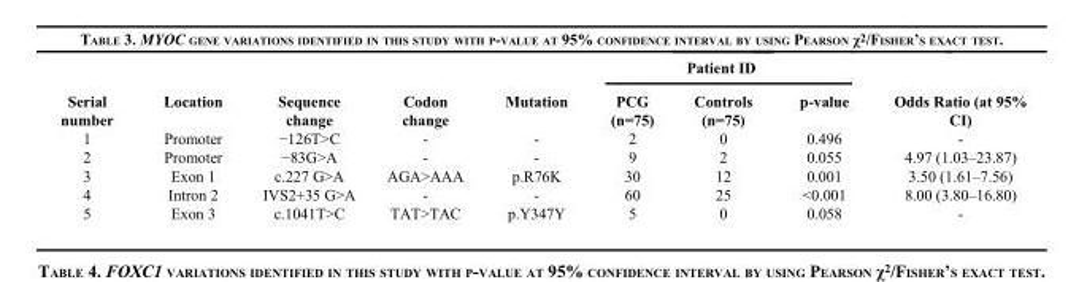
<table><thead><tr><td rowspan="2">Serial number</td><td rowspan="2">Location</td><td rowspan="2">Sequence change</td><td rowspan="2">Codon change</td><td rowspan="2">Mutation</td><td colspan="3">Patient ID</td><td rowspan="2">Odds Ratio (at 95% CI)</td></tr><tr><td>PCG (n=75)</td><td>Controls (n=75)</td><td>p-value</td></tr></thead><tbody><tr><td>1</td><td>Promoter</td><td>−126T&gt;C</td><td>-</td><td>-</td><td>2</td><td>0</td><td>0.496</td><td>-</td></tr><tr><td>2</td><td>Promoter</td><td>−83G&gt;A</td><td>-</td><td>-</td><td>9</td><td>2</td><td>0.055</td><td>4.97 (1.03–23.87)</td></tr><tr><td>3</td><td>Exon 1</td><td>c.227 G&gt;A</td><td>AGA&gt;AAA</td><td>p.R76K</td><td>30</td><td>12</td><td>0.001</td><td>3.50 (1.61–7.56)</td></tr><tr><td>4</td><td>Intron 2</td><td>IVS2+35 G&gt;A</td><td>-</td><td>-</td><td>60</td><td>25</td><td>&lt;0.001</td><td>8.00 (3.80–16.80)</td></tr><tr><td>5</td><td>Exon 3</td><td>c.1041T&gt;C</td><td>TAT&gt;TAC</td><td>p.Y347Y</td><td>5</td><td>0</td><td>0.058</td><td>-</td></tr></tbody></table>